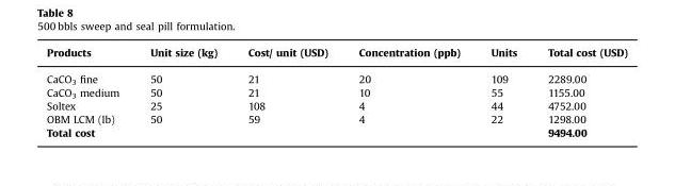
<table><thead><tr><td>Products</td><td>Unit size (kg)</td><td>Cost/ unit (USD)</td><td>Concentration (ppb)</td><td>Units</td><td>Total cost (USD)</td></tr></thead><tbody><tr><td>CaCO<sub>3</sub> fine</td><td>50</td><td>21</td><td>20</td><td>109</td><td>2289.00</td></tr><tr><td>CaCO<sub>3</sub> medium</td><td>50</td><td>21</td><td>10</td><td>55</td><td>1155.00</td></tr><tr><td>Soltex</td><td>25</td><td>108</td><td>4</td><td>44</td><td>4752.00</td></tr><tr><td>OBM LCM (lb)</td><td>50</td><td>59</td><td>4</td><td>22</td><td>1298.00</td></tr><tr><td>Total cost</td><td></td><td></td><td></td><td></td><td>9494.00</td></tr></tbody></table>